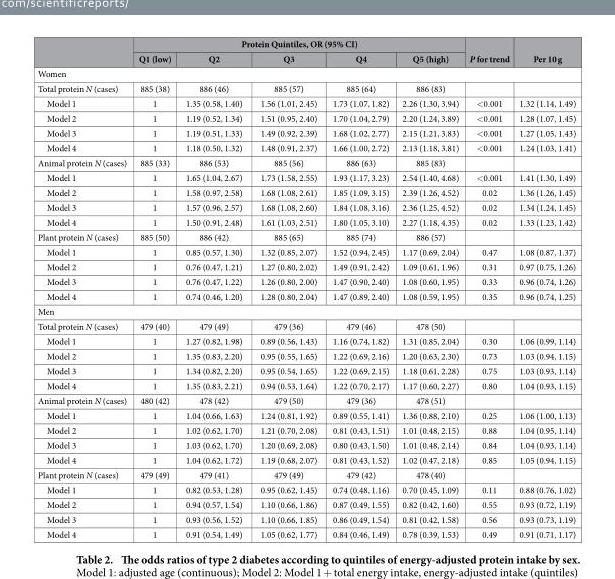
<table><thead><tr><td rowspan="2"></td><td colspan="5">Protein Quintiles, OR (95% CI)</td><td rowspan="2">P for trend</td><td rowspan="2">Per 10 g</td></tr><tr><td>Q1 (low)</td><td>Q2</td><td>Q3</td><td>Q4</td><td>Q5 (high)</td></tr></thead><tbody><tr><td colspan="8">Women</td></tr><tr><td>Total protein N (cases)</td><td>885 (38)</td><td>886 (46)</td><td>885 (57)</td><td>885 (64)</td><td>886 (83)</td><td></td><td></td></tr><tr><td>Model 1</td><td>1</td><td>1.35 (0.58, 1.40)</td><td>1.56 (1.01, 2.45)</td><td>1.73 (1.07, 1.82)</td><td>2.26 (1.30, 3.94)</td><td>&lt; 0.001</td><td>1.32 (1.14, 1.49)</td></tr><tr><td>Model 2</td><td>1</td><td>1.19 (0.52, 1.34)</td><td>1.51 (0.95, 2.40)</td><td>1.70 (1.04, 2.79)</td><td>2.20 (1.24, 3.89)</td><td>&lt; 0.001</td><td>1.28 (1.07, 1.45)</td></tr><tr><td>Model 3</td><td>1</td><td>1.19 (0.51, 1.33)</td><td>1.49 (0.92, 2.39)</td><td>1.68 (1.02, 2.77)</td><td>2.15 (1.21, 3.83)</td><td>&lt; 0.001</td><td>1.27 (1.05, 1.43)</td></tr><tr><td>Model 4</td><td>1</td><td>1.18 (0.50, 1.32)</td><td>1.48 (0.91, 2.37)</td><td>1.66 (1.00, 2.72)</td><td>2.13 (1.18, 3.81)</td><td>&lt; 0.001</td><td>1.24 (1.03, 1.41)</td></tr><tr><td>Animal protein N (cases)</td><td>885 (33)</td><td>886 (53)</td><td>885 (56)</td><td>886 (63)</td><td>885 (83)</td><td></td><td></td></tr><tr><td>Model 1</td><td>1</td><td>1.65 (1.04, 2.67)</td><td>1.73 (1.58, 2.55)</td><td>1.93 (1.17, 3.23)</td><td>2.54 (1.40, 4.68)</td><td>&lt; 0.001</td><td>1.41 (1.30, 1.49)</td></tr><tr><td>Model 2</td><td>1</td><td>1.58 (0.97, 2.58)</td><td>1.68 (1.08, 2.61)</td><td>1.85 (1.09, 3.15)</td><td>2.39 (1.26, 4.52)</td><td>0.02</td><td>1.36 (1.26, 1.45)</td></tr><tr><td>Model 3</td><td>1</td><td>1.57 (0.96, 2.57)</td><td>1.68 (1.08, 2.60)</td><td>1.84 (1.08, 3.16)</td><td>2.36 (1.25, 4.52)</td><td>0.02</td><td>1.34 (1.24, 1.45)</td></tr><tr><td>Model 4</td><td>1</td><td>1.50 (0.91, 2.48)</td><td>1.61 (1.03, 2.51)</td><td>1.80 (1.05, 3.10)</td><td>2.27 (1.18, 4.35)</td><td>0.02</td><td>1.33 (1.23, 1.42)</td></tr><tr><td>Plant protein N (cases)</td><td>885 (50)</td><td>886 (42)</td><td>885 (65)</td><td>885 (74)</td><td>886 (57)</td><td></td><td></td></tr><tr><td>Model 1</td><td>1</td><td>0.85 (0.57, 1.30)</td><td>1.32 (0.85, 2.07)</td><td>1.52 (0.94, 2.45)</td><td>1.17 (0.69, 2.04)</td><td>0.47</td><td>1.08 (0.87, 1.37)</td></tr><tr><td>Model 2</td><td>1</td><td>0.76 (0.47, 1.21)</td><td>1.27 (0.80, 2.02)</td><td>1.49 (0.91, 2.42)</td><td>1.09 (0.61, 1.96)</td><td>0.31</td><td>0.97 (0.75, 1.26)</td></tr><tr><td>Model 3</td><td>1</td><td>0.76 (0.47, 1.22)</td><td>1.26 (0.80, 2.00)</td><td>1.47 (0.90, 2.40)</td><td>1.08 (0.60, 1.95)</td><td>0.33</td><td>0.96 (0.74, 1.26)</td></tr><tr><td>Model 4</td><td>1</td><td>0.74 (0.46, 1.20)</td><td>1.28 (0.80, 2.04)</td><td>1.47 (0.89, 2.40)</td><td>1.08 (0.59, 1.95)</td><td>0.35</td><td>0.96 (0.74, 1.25)</td></tr><tr><td colspan="8">Men</td></tr><tr><td>Total protein N (cases)</td><td>479 (40)</td><td>479 (49)</td><td>479 (36)</td><td>479 (46)</td><td>478 (50)</td><td></td><td></td></tr><tr><td>Model 1</td><td>1</td><td>1.27 (0.82, 1.98)</td><td>0.89 (0.56, 1.43)</td><td>1.16 (0.74, 1.82)</td><td>1.31 (0.85, 2.04)</td><td>0.30</td><td>1.06 (0.99, 1.14)</td></tr><tr><td>Model 2</td><td>1</td><td>1.35 (0.83, 2.20)</td><td>0.95 (0.55, 1.65)</td><td>1.22 (0.69, 2.16)</td><td>1.20 (0.63, 2.30)</td><td>0.73</td><td>1.03 (0.94, 1.15)</td></tr><tr><td>Model 3</td><td>1</td><td>1.34 (0.82, 2.20)</td><td>0.95 (0.54, 1.65)</td><td>1.22 (0.69, 2.15)</td><td>1.18 (0.61, 2.28)</td><td>0.75</td><td>1.03 (0.93, 1.14)</td></tr><tr><td>Model 4</td><td>1</td><td>1.35 (0.83, 2.21)</td><td>0.94 (0.53, 1.64)</td><td>1.22 (0.70, 2.17)</td><td>1.17 (0.60, 2.27)</td><td>0.80</td><td>1.04 (0.93, 1.15)</td></tr><tr><td>Animal protein N (cases)</td><td>480 (42)</td><td>478 (42)</td><td>479 (50)</td><td>479 (36)</td><td>478 (51)</td><td></td><td></td></tr><tr><td>Model 1</td><td>1</td><td>1.04 (0.66, 1.63)</td><td>1.24 (0.81, 1.92)</td><td>0.89 (0.55, 1.41)</td><td>1.36 (0.88, 2.10)</td><td>0.25</td><td>1.06 (1.00, 1.13)</td></tr><tr><td>Model 2</td><td>1</td><td>1.02 (0.62, 1.70)</td><td>1.21 (0.70, 2.08)</td><td>0.81 (0.43, 1.51)</td><td>1.01 (0.48, 2.15)</td><td>0.88</td><td>1.04 (0.95, 1.14)</td></tr><tr><td>Model 3</td><td>1</td><td>1.03 (0.62, 1.70)</td><td>1.20 (0.69, 2.08)</td><td>0.80 (0.43, 1.50)</td><td>1.01 (0.48, 2.14)</td><td>0.84</td><td>1.04 (0.93, 1.14)</td></tr><tr><td>Model 4</td><td>1</td><td>1.04 (0.62, 1.72)</td><td>1.19 (0.68, 2.07)</td><td>0.81 (0.43, 1.52)</td><td>1.02 (0.47, 2.18)</td><td>0.85</td><td>1.05 (0.94, 1.15)</td></tr><tr><td>Plant protein N (cases)</td><td>479 (49)</td><td>479 (41)</td><td>479 (49)</td><td>479 (42)</td><td>478 (40)</td><td></td><td></td></tr><tr><td>Model 1</td><td>1</td><td>0.82 (0.53, 1.28)</td><td>0.95 (0.62, 1.45)</td><td>0.74 (0.48, 1.16)</td><td>0.70 (0.45, 1.09)</td><td>0.11</td><td>0.88 (0.76, 1.02)</td></tr><tr><td>Model 2</td><td>1</td><td>0.94 (0.57, 1.54)</td><td>1.10 (0.66, 1.86)</td><td>0.87 (0.49, 1.55)</td><td>0.82 (0.42, 1.60)</td><td>0.55</td><td>0.93 (0.72, 1.19)</td></tr><tr><td>Model 3</td><td>1</td><td>0.93 (0.56, 1.52)</td><td>1.10 (0.66, 1.85)</td><td>0.86 (0.49, 1.54)</td><td>0.81 (0.42, 1.58)</td><td>0.56</td><td>0.93 (0.73, 1.19)</td></tr><tr><td>Model 4</td><td>1</td><td>0.91 (0.54, 1.49)</td><td>1.05 (0.62, 1.77)</td><td>0.84 (0.46, 1.49)</td><td>0.78 (0.39, 1.53)</td><td>0.49</td><td>0.91 (0.71, 1.17)</td></tr></tbody></table>